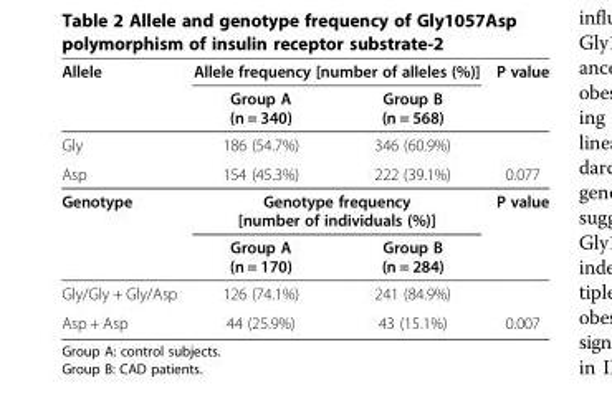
<table><thead><tr><td rowspan="2">Allele</td><td colspan="2">Allele frequency [number of alleles (%)]</td><td rowspan="2">P value</td></tr><tr><td>Group A (n = 340)</td><td>Group B (n = 568)</td></tr></thead><tbody><tr><td>Gly</td><td>186 (54.7%)</td><td>346 (60.9%)</td><td></td></tr><tr><td>Asp</td><td>154 (45.3%)</td><td>222 (39.1%)</td><td>0.077</td></tr><tr><td rowspan="2">Genotype</td><td colspan="2">Genotype frequency [number of individuals (%)]</td><td rowspan="2">P value</td></tr><tr><td>Group A (n = 170)</td><td>Group B (n = 284)</td></tr><tr><td>Gly/Gly + Gly/Asp</td><td>126 (74.1%)</td><td>241 (84.9%)</td><td></td></tr><tr><td>Asp + Asp</td><td>44 (25.9%)</td><td>43 (15.1%)</td><td>0.007</td></tr></tbody></table>